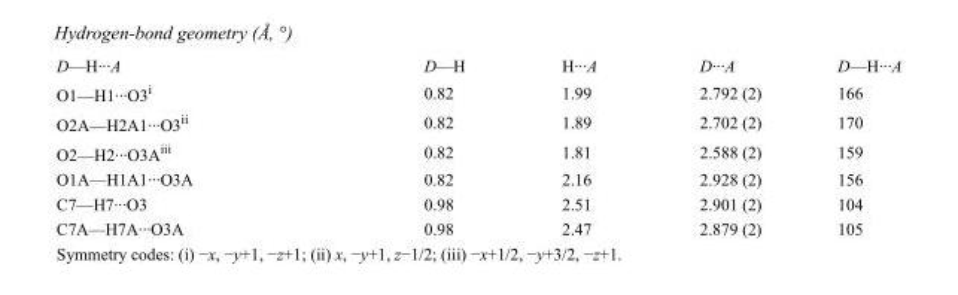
<table><tbody><tr><td>D—H···A</td><td>D—H</td><td>H···A</td><td>D···A</td><td>D—H···A</td></tr><tr><td>O1—H1···O3<sup>i</sup></td><td>0.82</td><td>1.99</td><td>2.792 (2)</td><td>166</td></tr><tr><td>O2A—H2A1···O3<sup>ii</sup></td><td>0.82</td><td>1.89</td><td>2.702 (2)</td><td>170</td></tr><tr><td>O2—H2···O3A<sup>iii</sup></td><td>0.82</td><td>1.81</td><td>2.588 (2)</td><td>159</td></tr><tr><td>O1A—H1A1···O3A</td><td>0.82</td><td>2.16</td><td>2.928 (2)</td><td>156</td></tr><tr><td>C7—H7···O3</td><td>0.98</td><td>2.51</td><td>2.901 (2)</td><td>104</td></tr><tr><td>C7A—H7A···O3A</td><td>0.98</td><td>2.47</td><td>2.879 (2)</td><td>105</td></tr></tbody></table>